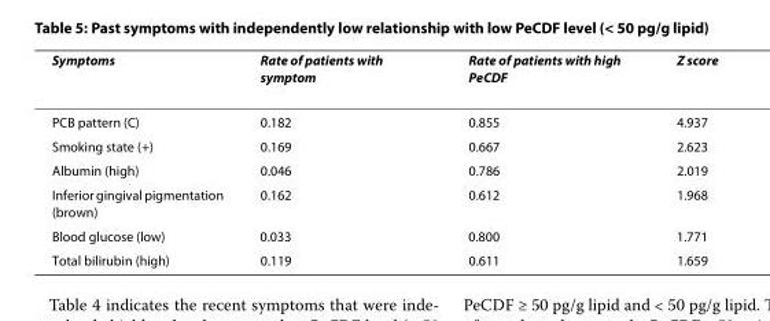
<table><thead><tr><td>Symptoms</td><td>Rate of patients with symptom</td><td>Rate of patients with high PeCDF</td><td>Z score</td></tr></thead><tbody><tr><td>PCB pattern (C)</td><td>0.182</td><td>0.855</td><td>4.937</td></tr><tr><td>Smoking state (+)</td><td>0.169</td><td>0.667</td><td>2.623</td></tr><tr><td>Albumin (high)</td><td>0.046</td><td>0.786</td><td>2.019</td></tr><tr><td>Inferior gingival pigmentation (brown)</td><td>0.162</td><td>0.612</td><td>1.968</td></tr><tr><td>Blood glucose (low)</td><td>0.033</td><td>0.800</td><td>1.771</td></tr><tr><td>Total bilirubin (high)</td><td>0.119</td><td>0.611</td><td>1.659</td></tr></tbody></table>